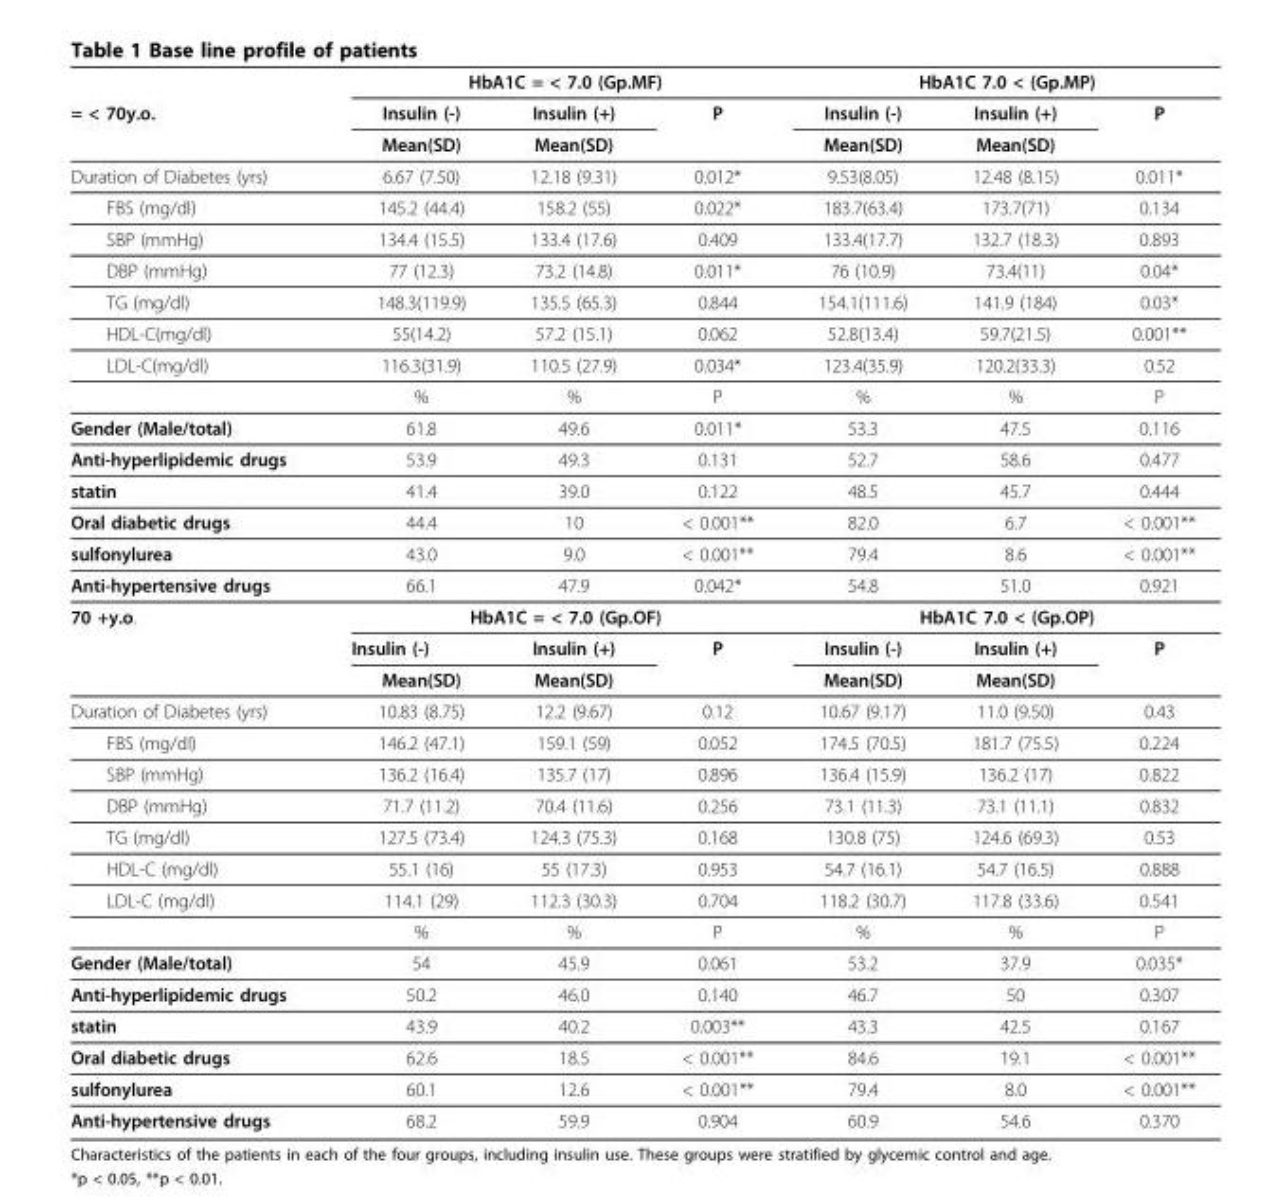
<table><thead><tr><td rowspan="3">= &lt; 70y.o.</td><td colspan="3">HbA1C = &lt; 7.0 (Gp.MF)</td><td colspan="3">HbA1C 7.0 &lt; (Gp.MP)</td></tr><tr><td rowspan="2">Insulin (-) Mean(SD)</td><td rowspan="2">Insulin (+) Mean(SD)</td><td rowspan="2">P</td><td rowspan="2">Insulin (-) Mean(SD)</td><td rowspan="2">Insulin (+) Mean(SD)</td><td rowspan="2">P</td></tr><tr></tr></thead><tbody><tr><td>Duration of Diabetes (yrs)</td><td>6.67 (7.50)</td><td>12.18 (9.31)</td><td>0.012*</td><td>9.53(8.05)</td><td>12.48 (8.15)</td><td>0.011*</td></tr><tr><td>FBS (mg/dl)</td><td>145.2 (44.4)</td><td>158.2 (55)</td><td>0.022*</td><td>183.7(63.4)</td><td>173.7(71)</td><td>0.134</td></tr><tr><td>SBP (mmHg)</td><td>134.4 (15.5)</td><td>133.4 (17.6)</td><td>0.409</td><td>133.4(17.7)</td><td>132.7 (18.3)</td><td>0.893</td></tr><tr><td>DBP (mmHg)</td><td>77 (12.3)</td><td>73.2 (14.8)</td><td>0.011*</td><td>76 (10.9)</td><td>73.4(11)</td><td>0.04*</td></tr><tr><td>TG (mg/dl)</td><td>148.3(119.9)</td><td>135.5 (65.3)</td><td>0.844</td><td>154.1(111.6)</td><td>141.9 (184)</td><td>0.03*</td></tr><tr><td>HDL-C(mg/dl)</td><td>55(14.2)</td><td>57.2 (15.1)</td><td>0.062</td><td>52.8(13.4)</td><td>59.7(21.5)</td><td>0.001**</td></tr><tr><td rowspan="2">LDL-C(mg/dl)</td><td>116.3(31.9)</td><td>110.5 (27.9)</td><td>0.034*</td><td>123.4(35.9)</td><td>120.2(33.3)</td><td>0.52</td></tr><tr><td>%</td><td>%</td><td>P</td><td>%</td><td>%</td><td>P</td></tr><tr><td>Gender (Male/total)</td><td>61.8</td><td>49.6</td><td>0.011*</td><td>53.3</td><td>47.5</td><td>0.116</td></tr><tr><td>Anti-hyperlipidemic drugs</td><td>53.9</td><td>49.3</td><td>0.131</td><td>52.7</td><td>58.6</td><td>0.477</td></tr><tr><td>statin</td><td>41.4</td><td>39.0</td><td>0.122</td><td>48.5</td><td>45.7</td><td>0.444</td></tr><tr><td>Oral diabetic drugs</td><td>44.4</td><td>10</td><td>&lt; 0.001**</td><td>82.0</td><td>6.7</td><td>&lt; 0.001**</td></tr><tr><td>sulfonylurea</td><td>43.0</td><td>9.0</td><td>&lt; 0.001**</td><td>79.4</td><td>8.6</td><td>&lt; 0.001**</td></tr><tr><td>Anti-hypertensive drugs</td><td>66.1</td><td>47.9</td><td>0.042*</td><td>54.8</td><td>51.0</td><td>0.921</td></tr><tr><td rowspan="3">70 +y.o.</td><td colspan="3">HbA1C = &lt; 7.0 (Gp.OF)</td><td colspan="3">HbA1C 7.0 &lt; (Gp.OP)</td></tr><tr><td>Insulin (-)</td><td>Insulin (+)</td><td>P</td><td>Insulin (-)</td><td>Insulin (+)</td><td>P</td></tr><tr><td>Mean(SD)</td><td>Mean(SD)</td><td></td><td>Mean(SD)</td><td>Mean(SD)</td><td></td></tr><tr><td>Duration of Diabetes (yrs)</td><td>10.83 (8.75)</td><td>12.2 (9.67)</td><td>0.12</td><td>10.67 (9.17)</td><td>11.0 (9.50)</td><td>0.43</td></tr><tr><td>FBS (mg/dl)</td><td>146.2 (47.1)</td><td>159.1 (59)</td><td>0.052</td><td>174.5 (70.5)</td><td>181.7 (75.5)</td><td>0.224</td></tr><tr><td>SBP (mmHg)</td><td>136.2 (16.4)</td><td>135.7 (17)</td><td>0.896</td><td>136.4 (15.9)</td><td>136.2 (17)</td><td>0.822</td></tr><tr><td>DBP (mmHg)</td><td>71.7 (11.2)</td><td>70.4 (11.6)</td><td>0.256</td><td>73.1 (11.3)</td><td>73.1 (11.1)</td><td>0.832</td></tr><tr><td>TG (mg/dl)</td><td>127.5 (73.4)</td><td>124.3 (75.3)</td><td>0.168</td><td>130.8 (75)</td><td>124.6 (69.3)</td><td>0.53</td></tr><tr><td>HDL-C (mg/dl)</td><td>55.1 (16)</td><td>55 (17.3)</td><td>0.953</td><td>54.7 (16.1)</td><td>54.7 (16.5)</td><td>0.888</td></tr><tr><td rowspan="2">LDL-C (mg/dl)</td><td>114.1 (29)</td><td>112.3 (30.3)</td><td>0.704</td><td>118.2 (30.7)</td><td>117.8 (33.6)</td><td>0.541</td></tr><tr><td>%</td><td>%</td><td>P</td><td>%</td><td>%</td><td>P</td></tr><tr><td>Gender (Male/total)</td><td>54</td><td>45.9</td><td>0.061</td><td>53.2</td><td>37.9</td><td>0.035*</td></tr><tr><td>Anti-hyperlipidemic drugs</td><td>50.2</td><td>46.0</td><td>0.140</td><td>46.7</td><td>50</td><td>0.307</td></tr><tr><td>statin</td><td>43.9</td><td>40.2</td><td>0.003**</td><td>43.3</td><td>42.5</td><td>0.167</td></tr><tr><td>Oral diabetic drugs</td><td>62.6</td><td>18.5</td><td>&lt; 0.001**</td><td>84.6</td><td>19.1</td><td>&lt; 0.001**</td></tr><tr><td>sulfonylurea</td><td>60.1</td><td>12.6</td><td>&lt; 0.001**</td><td>79.4</td><td>8.0</td><td>&lt; 0.001**</td></tr><tr><td>Anti-hypertensive drugs</td><td>68.2</td><td>59.9</td><td>0.904</td><td>60.9</td><td>54.6</td><td>0.370</td></tr></tbody></table>